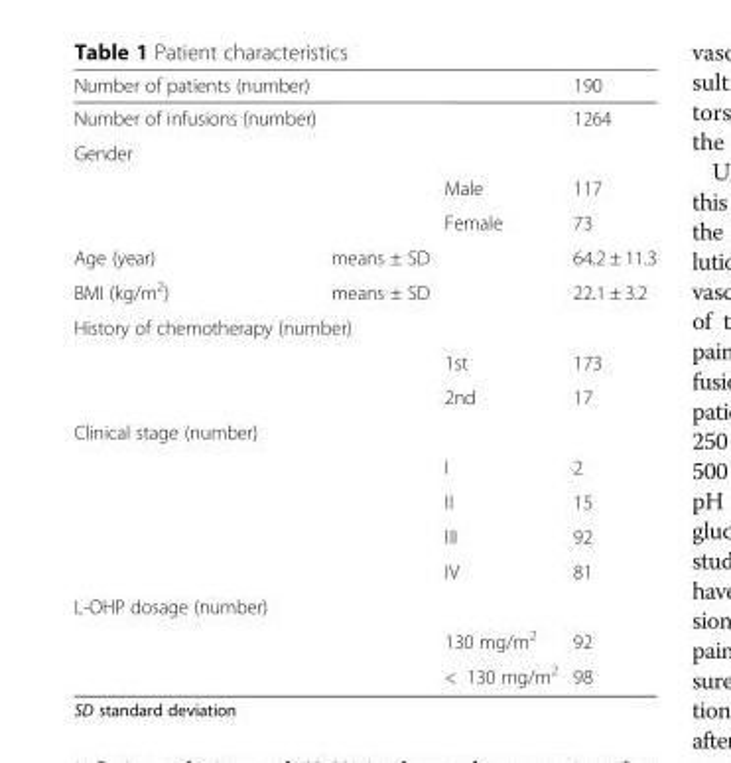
<table><thead><tr><td>Number of patients (number)</td><td></td><td></td><td>190</td></tr></thead><tbody><tr><td>Number of infusions (number)</td><td></td><td></td><td>1264</td></tr><tr><td colspan="4">Gender</td></tr><tr><td></td><td></td><td>Male</td><td>117</td></tr><tr><td></td><td></td><td>Female</td><td>73</td></tr><tr><td>Age (year)</td><td>means ± SD</td><td></td><td>64.2 ± 11.3</td></tr><tr><td>BMI (kg/m<sup>2</sup>)</td><td>means ± SD</td><td></td><td>22.1 ± 3.2</td></tr><tr><td colspan="4">History of chemotherapy (number)</td></tr><tr><td></td><td></td><td>1st</td><td>173</td></tr><tr><td></td><td></td><td>2nd</td><td>17</td></tr><tr><td colspan="4">Clinical stage (number)</td></tr><tr><td></td><td></td><td>I</td><td>2</td></tr><tr><td></td><td></td><td>II</td><td>15</td></tr><tr><td></td><td></td><td>III</td><td>92</td></tr><tr><td></td><td></td><td>IV</td><td>81</td></tr><tr><td colspan="4">L-OHP dosage (number)</td></tr><tr><td></td><td></td><td>130 mg/m<sup>2</sup></td><td>92</td></tr><tr><td></td><td></td><td>&lt; 130 mg/m<sup>2</sup></td><td>98</td></tr></tbody></table>